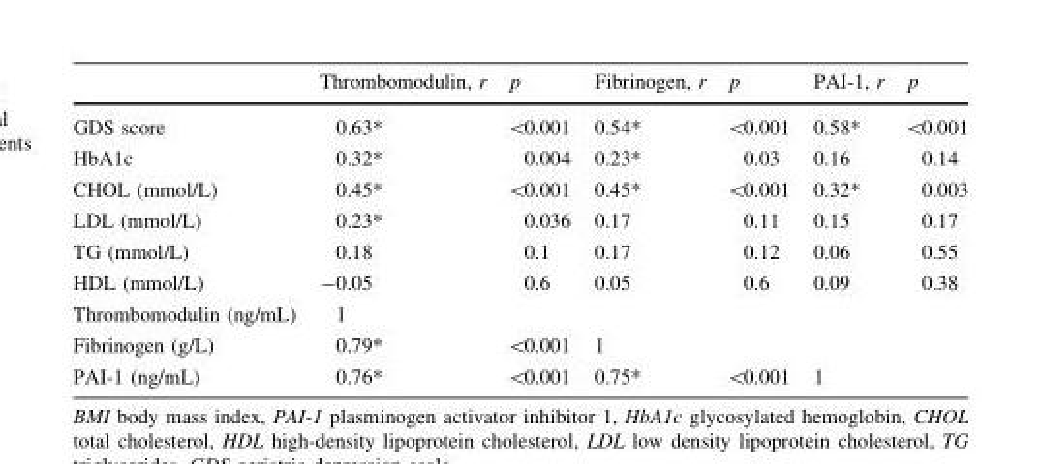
<table><thead><tr><td></td><td>Thrombomodulin, r</td><td>p</td><td>Fibrinogen, r</td><td>p</td><td>PAI-1, r</td><td>p</td></tr></thead><tbody><tr><td>GDS score</td><td>0.63*</td><td>&lt;0.001</td><td>0.54*</td><td>&lt;0.001</td><td>0.58*</td><td>&lt;0.001</td></tr><tr><td>HbA1c</td><td>0.32*</td><td>0.004</td><td>0.23*</td><td>0.03</td><td>0.16</td><td>0.14</td></tr><tr><td>CHOL (mmol/L)</td><td>0.45*</td><td>&lt;0.001</td><td>0.45*</td><td>&lt;0.001</td><td>0.32*</td><td>0.003</td></tr><tr><td>LDL (mmol/L)</td><td>0.23*</td><td>0.036</td><td>0.17</td><td>0.11</td><td>0.15</td><td>0.17</td></tr><tr><td>TG (mmol/L)</td><td>0.18</td><td>0.1</td><td>0.17</td><td>0.12</td><td>0.06</td><td>0.55</td></tr><tr><td>HDL (mmol/L)</td><td>-0.05</td><td>0.6</td><td>0.05</td><td>0.6</td><td>0.09</td><td>0.38</td></tr><tr><td>Thrombomodulin (ng/mL)</td><td>1</td><td></td><td></td><td></td><td></td><td></td></tr><tr><td>Fibrinogen (g/L)</td><td>0.79*</td><td>&lt;0.001</td><td>1</td><td></td><td></td><td></td></tr><tr><td>PAI-1 (ng/mL)</td><td>0.76*</td><td>&lt;0.001</td><td>0.75*</td><td>&lt;0.001</td><td>1</td><td></td></tr></tbody></table>